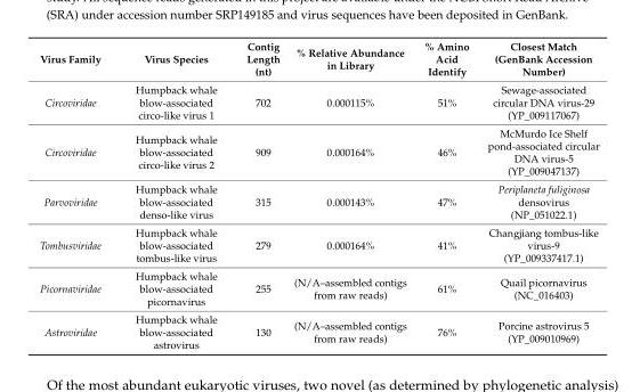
<table><thead><tr><td>Virus Family</td><td>Virus Species</td><td>Contig Length (nt)</td><td>% Relative Abundance in Library</td><td>% Amino Acid Identify</td><td>Closest Match (GenBank Accession Number)</td></tr></thead><tbody><tr><td>Circoviridae</td><td>Humpback whale blow-associated circo-like virus 1</td><td>702</td><td>0.000115%</td><td>51%</td><td>Sewage-associated circular DNA virus-29 (YP_009117067)</td></tr><tr><td>Circoviridae</td><td>Humpback whale blow-associated circo-like virus 2</td><td>909</td><td>0.000164%</td><td>46%</td><td>McMurdo Ice Shelf pond-associated circular DNA virus-5 (YP_009047137)</td></tr><tr><td>Parvoviridae</td><td>Humpback whale blow-associated denso-like virus</td><td>315</td><td>0.000143%</td><td>47%</td><td>Periplaneta fuliginosa densovirus (NP_051022.1)</td></tr><tr><td>Tombusviridae</td><td>Humpback whale blow-associated tombus-like virus</td><td>279</td><td>0.000164%</td><td>41%</td><td>Changjiang tombus-like virus-9 (YP_009337417.1)</td></tr><tr><td>Picornaviridae</td><td>Humpback whale blow-associated picornavirus</td><td>255</td><td>(N/A–assembled contigs from raw reads)</td><td>61%</td><td>Quail picornavirus (NC_016403)</td></tr><tr><td>Astroviridae</td><td>Humpback whale blow-associated astrovirus</td><td>130</td><td>(N/A–assembled contigs from raw reads)</td><td>76%</td><td>Porcine astrovirus 5 (YP_009010969)</td></tr></tbody></table>